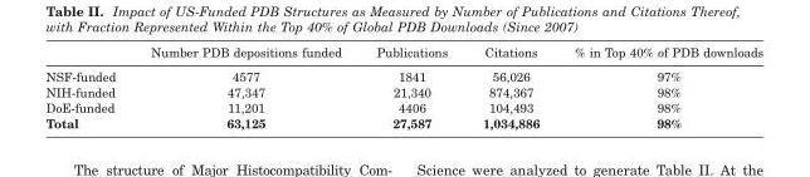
<table><thead><tr><td></td><td>Number PDB depositions funded</td><td>Publications</td><td>Citations</td><td>% in Top 40% of PDB downloads</td></tr></thead><tbody><tr><td>NSF-funded</td><td>4577</td><td>1841</td><td>56,026</td><td>97%</td></tr><tr><td>NIH-funded</td><td>47,347</td><td>21,340</td><td>874,367</td><td>98%</td></tr><tr><td>DoE-funded</td><td>11,201</td><td>4406</td><td>104,493</td><td>98%</td></tr><tr><td>Total</td><td>63,125</td><td>27,587</td><td>1,034,886</td><td>98%</td></tr></tbody></table>